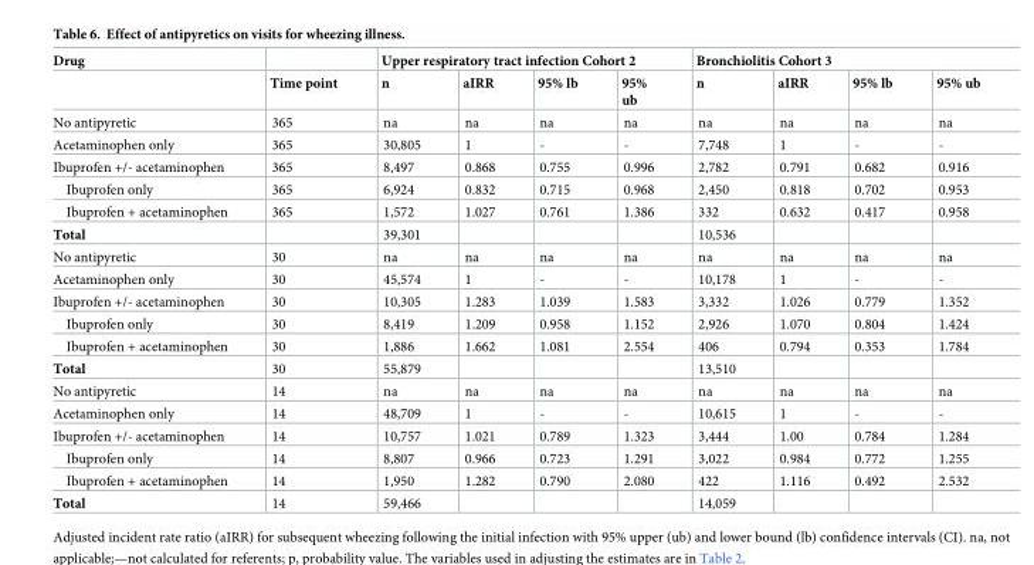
<table><thead><tr><td rowspan="2">Drug</td><td rowspan="2">Time point</td><td colspan="4">Upper respiratory tract infection Cohort 2</td><td colspan="4">Bronchiolitis Cohort 3</td></tr><tr><td>n</td><td>aIRR</td><td>95% lb</td><td>95% ub</td><td>n</td><td>aIRR</td><td>95% lb</td><td>95% ub</td></tr></thead><tbody><tr><td>No antipyretic</td><td>365</td><td>na</td><td>na</td><td>na</td><td>na</td><td>na</td><td>na</td><td>na</td><td>na</td></tr><tr><td>Acetaminophen only</td><td>365</td><td>30,805</td><td>1</td><td>-</td><td>-</td><td>7,748</td><td>1</td><td>-</td><td>-</td></tr><tr><td>Ibuprofen +/- acetaminophen</td><td>365</td><td>8,497</td><td>0.868</td><td>0.755</td><td>0.996</td><td>2,782</td><td>0.791</td><td>0.682</td><td>0.916</td></tr><tr><td>Ibuprofen only</td><td>365</td><td>6,924</td><td>0.832</td><td>0.715</td><td>0.968</td><td>2,450</td><td>0.818</td><td>0.702</td><td>0.953</td></tr><tr><td>Ibuprofen + acetaminophen</td><td>365</td><td>1,572</td><td>1.027</td><td>0.761</td><td>1.386</td><td>332</td><td>0.632</td><td>0.417</td><td>0.958</td></tr><tr><td>Total</td><td></td><td>39,301</td><td></td><td></td><td></td><td>10,536</td><td></td><td></td><td></td></tr><tr><td>No antipyretic</td><td>30</td><td>na</td><td>na</td><td>na</td><td>na</td><td>na</td><td>na</td><td>na</td><td>na</td></tr><tr><td>Acetaminophen only</td><td>30</td><td>45,574</td><td>1</td><td>-</td><td>-</td><td>10,178</td><td>1</td><td>-</td><td>-</td></tr><tr><td>Ibuprofen +/- acetaminophen</td><td>30</td><td>10,305</td><td>1.283</td><td>1.039</td><td>1.583</td><td>3,332</td><td>1.026</td><td>0.779</td><td>1.352</td></tr><tr><td>Ibuprofen only</td><td>30</td><td>8,419</td><td>1.209</td><td>0.958</td><td>1.152</td><td>2,926</td><td>1.070</td><td>0.804</td><td>1.424</td></tr><tr><td>Ibuprofen + acetaminophen</td><td>30</td><td>1,886</td><td>1.662</td><td>1.081</td><td>2.554</td><td>406</td><td>0.794</td><td>0.353</td><td>1.784</td></tr><tr><td>Total</td><td>30</td><td>55,879</td><td></td><td></td><td></td><td>13,510</td><td></td><td></td><td></td></tr><tr><td>No antipyretic</td><td>14</td><td>na</td><td>na</td><td>na</td><td>na</td><td>na</td><td>na</td><td>na</td><td>na</td></tr><tr><td>Acetaminophen only</td><td>14</td><td>48,709</td><td>1</td><td>-</td><td>-</td><td>10,615</td><td>1</td><td>-</td><td>-</td></tr><tr><td>Ibuprofen +/- acetaminophen</td><td>14</td><td>10,757</td><td>1.021</td><td>0.789</td><td>1.323</td><td>3,444</td><td>1.00</td><td>0.784</td><td>1.284</td></tr><tr><td>Ibuprofen only</td><td>14</td><td>8,807</td><td>0.966</td><td>0.723</td><td>1.291</td><td>3,022</td><td>0.984</td><td>0.772</td><td>1.255</td></tr><tr><td>Ibuprofen + acetaminophen</td><td>14</td><td>1,950</td><td>1.282</td><td>0.790</td><td>2.080</td><td>422</td><td>1.116</td><td>0.492</td><td>2.532</td></tr><tr><td>Total</td><td>14</td><td>59,466</td><td></td><td></td><td></td><td>14,059</td><td></td><td></td><td></td></tr></tbody></table>